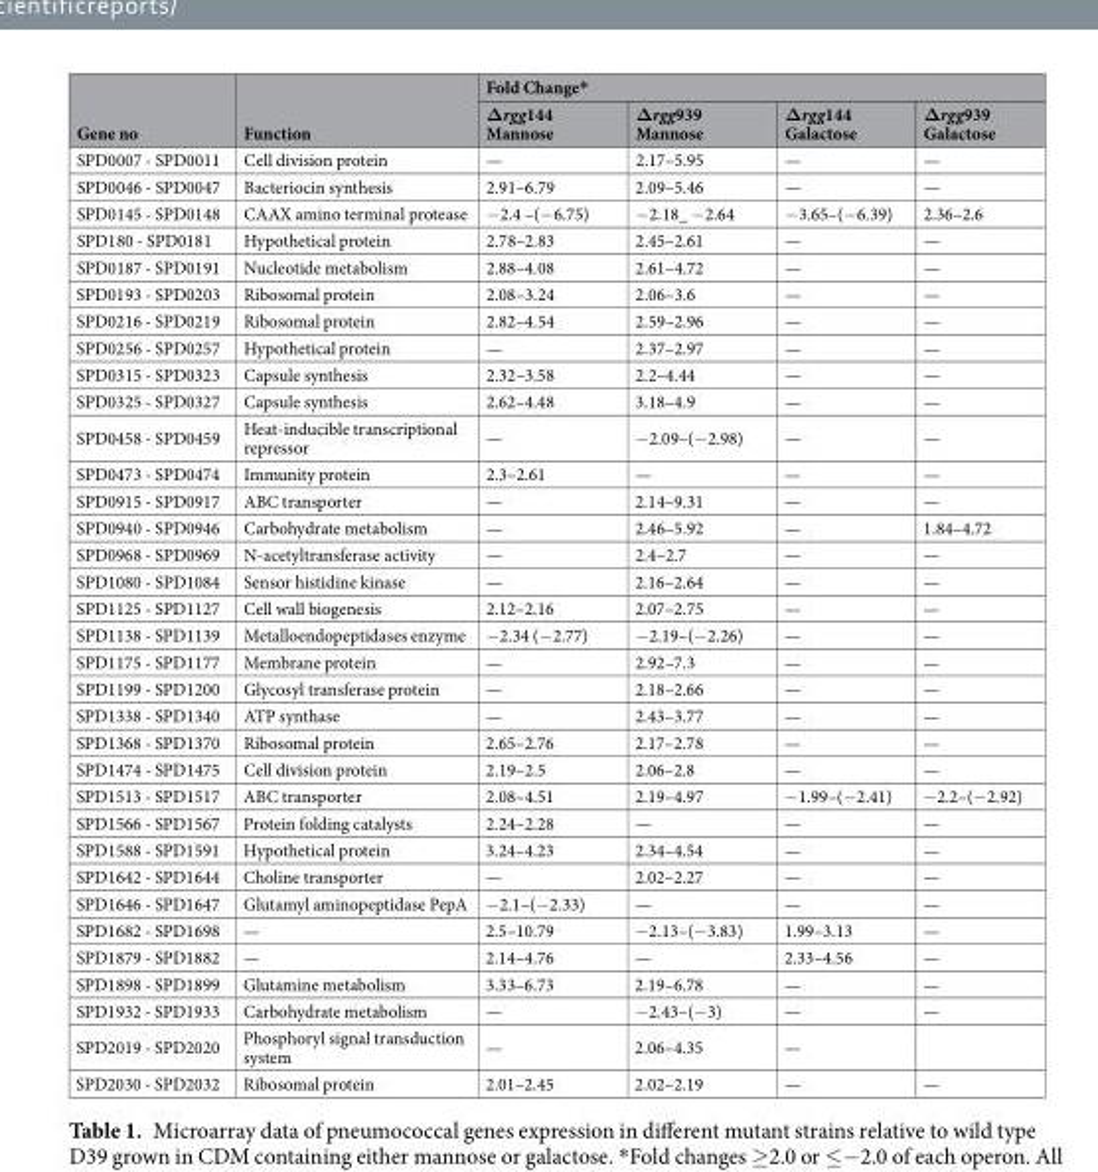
<table><thead><tr><td rowspan="2">Gene no</td><td rowspan="2">Function</td><td colspan="4">Fold Change*</td></tr><tr><td>Δrgg144 Mannose</td><td>Δrgg939 Mannose</td><td>Δrgg144 Galactose</td><td>Δrgg939 Galactose</td></tr></thead><tbody><tr><td>SPD0007 - SPD0011</td><td>Cell division protein</td><td>—</td><td>2.17–5.95</td><td>—</td><td>—</td></tr><tr><td>SPD0046 - SPD0047</td><td>Bacteriocin synthesis</td><td>2.91–6.79</td><td>2.09–5.46</td><td>—</td><td>—</td></tr><tr><td>SPD0145 - SPD0148</td><td>CAAX amino terminal protease</td><td>−2.4 –(−6.75)</td><td>−2.18_ −2.64</td><td>−3.65–(−6.39)</td><td>2.36–2.6</td></tr><tr><td>SPD180 - SPD0181</td><td>Hypothetical protein</td><td>2.78–2.83</td><td>2.45–2.61</td><td>—</td><td>—</td></tr><tr><td>SPD0187 - SPD0191</td><td>Nucleotide metabolism</td><td>2.88–4.08</td><td>2.61–4.72</td><td>—</td><td>—</td></tr><tr><td>SPD0193 - SPD0203</td><td>Ribosomal protein</td><td>2.08–3.24</td><td>2.06–3.6</td><td>—</td><td>—</td></tr><tr><td>SPD0216 - SPD0219</td><td>Ribosomal protein</td><td>2.82–4.54</td><td>2.59–2.96</td><td>—</td><td>—</td></tr><tr><td>SPD0256 - SPD0257</td><td>Hypothetical protein</td><td>—</td><td>2.37–2.97</td><td>—</td><td>—</td></tr><tr><td>SPD0315 - SPD0323</td><td>Capsule synthesis</td><td>2.32–3.58</td><td>2.2–4.44</td><td>—</td><td>—</td></tr><tr><td>SPD0325 - SPD0327</td><td>Capsule synthesis</td><td>2.62–4.48</td><td>3.18–4.9</td><td>—</td><td>—</td></tr><tr><td>SPD0458 - SPD0459</td><td>Heat-inducible transcriptional repressor</td><td>—</td><td>−2.09–(−2.98)</td><td>—</td><td>—</td></tr><tr><td>SPD0473 - SPD0474</td><td>Immunity protein</td><td>2.3–2.61</td><td>—</td><td>—</td><td>—</td></tr><tr><td>SPD0915 - SPD0917</td><td>ABC transporter</td><td>—</td><td>2.14–9.31</td><td>—</td><td>—</td></tr><tr><td>SPD0940 - SPD0946</td><td>Carbohydrate metabolism</td><td>—</td><td>2.46–5.92</td><td>—</td><td>1.84–4.72</td></tr><tr><td>SPD0968 - SPD0969</td><td>N-acetyltransferase activity</td><td>—</td><td>2.4–2.7</td><td>—</td><td>—</td></tr><tr><td>SPD1080 - SPD1084</td><td>Sensor histidine kinase</td><td>—</td><td>2.16–2.64</td><td>—</td><td>—</td></tr><tr><td>SPD1125 - SPD1127</td><td>Cell wall biogenesis</td><td>2.12–2.16</td><td>2.07–2.75</td><td>—</td><td>—</td></tr><tr><td>SPD1138 - SPD1139</td><td>Metalloendopeptidases enzyme</td><td>−2.34 (−2.77)</td><td>−2.19–(−2.26)</td><td>—</td><td>—</td></tr><tr><td>SPD1175 - SPD1177</td><td>Membrane protein</td><td>—</td><td>2.92–7.3</td><td>—</td><td>—</td></tr><tr><td>SPD1199 - SPD1200</td><td>Glycosyl transferase protein</td><td>—</td><td>2.18–2.66</td><td>—</td><td>—</td></tr><tr><td>SPD1338 - SPD1340</td><td>ATP synthase</td><td>—</td><td>2.43–3.77</td><td>—</td><td>—</td></tr><tr><td>SPD1368 - SPD1370</td><td>Ribosomal protein</td><td>2.65–2.76</td><td>2.17–2.78</td><td>—</td><td>—</td></tr><tr><td>SPD1474 - SPD1475</td><td>Cell division protein</td><td>2.19–2.5</td><td>2.06–2.8</td><td>—</td><td>—</td></tr><tr><td>SPD1513 - SPD1517</td><td>ABC transporter</td><td>2.08–4.51</td><td>2.19–4.97</td><td>−1.99–(−2.41)</td><td>−2.2–(−2.92)</td></tr><tr><td>SPD1566 - SPD1567</td><td>Protein folding catalysts</td><td>2.24–2.28</td><td>—</td><td>—</td><td>—</td></tr><tr><td>SPD1588 - SPD1591</td><td>Hypothetical protein</td><td>3.24–4.23</td><td>2.34–4.54</td><td>—</td><td>—</td></tr><tr><td>SPD1642 - SPD1644</td><td>Choline transporter</td><td>—</td><td>2.02–2.27</td><td>—</td><td>—</td></tr><tr><td>SPD1646 - SPD1647</td><td>Glutamyl aminopeptidase PepA</td><td>−2.1–(−2.33)</td><td>—</td><td>—</td><td>—</td></tr><tr><td>SPD1682 - SPD1698</td><td>—</td><td>2.5–10.79</td><td>−2.13–(−3.83)</td><td>1.99–3.13</td><td>—</td></tr><tr><td>SPD1879 - SPD1882</td><td>—</td><td>2.14–4.76</td><td>—</td><td>2.33–4.56</td><td>—</td></tr><tr><td>SPD1898 - SPD1899</td><td>Glutamine metabolism</td><td>3.33–6.73</td><td>2.19–6.78</td><td>—</td><td>—</td></tr><tr><td>SPD1932 - SPD1933</td><td>Carbohydrate metabolism</td><td>—</td><td>−2.43–(−3)</td><td>—</td><td>—</td></tr><tr><td>SPD2019 - SPD2020</td><td>Phosphoryl signal transduction system</td><td>—</td><td>2.06–4.35</td><td>—</td><td></td></tr><tr><td>SPD2030 - SPD2032</td><td>Ribosomal protein</td><td>2.01–2.45</td><td>2.02–2.19</td><td>—</td><td>—</td></tr></tbody></table>